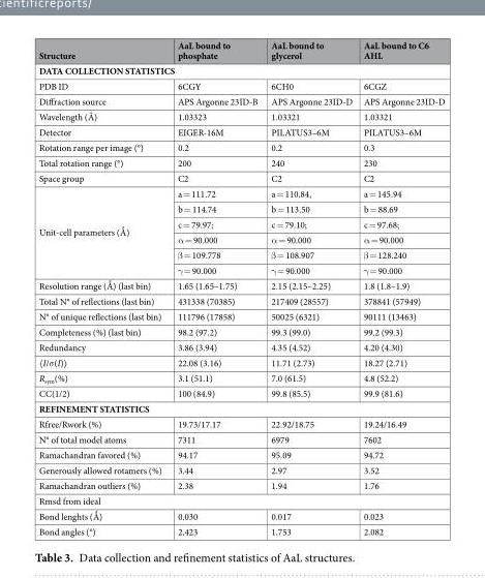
<table><thead><tr><td>Structure</td><td>AaL bound to phosphate</td><td>AaL bound to glycerol</td><td>AaL bound to C6 AHL</td></tr></thead><tbody><tr><td colspan="4">DATA COLLECTION STATISTICS</td></tr><tr><td>PDB ID</td><td>6CGY</td><td>6CH0</td><td>6CGZ</td></tr><tr><td>Diffraction source</td><td>APS Argonne 23ID-B</td><td>APS Argonne 23ID-D</td><td>APS Argonne 23ID-D</td></tr><tr><td>Wavelength (Å)</td><td>1.03323</td><td>1.03321</td><td>1.03321</td></tr><tr><td>Detector</td><td>EIGER-16M</td><td>PILATUS3–6M</td><td>PILATUS3–6M</td></tr><tr><td>Rotation range per image (°)</td><td>0.2</td><td>0.2</td><td>0.3</td></tr><tr><td>Total rotation range (°)</td><td>200</td><td>240</td><td>230</td></tr><tr><td>Space group</td><td>C2</td><td>C2</td><td>C2</td></tr><tr><td rowspan="6">Unit-cell parameters (Ǻ)</td><td>a = 111.72</td><td>a = 110.84,</td><td>a = 145.94</td></tr><tr><td>b = 114.74</td><td>b = 113.50</td><td>b = 88.69</td></tr><tr><td>c = 79.97;</td><td>c = 79.10;</td><td>c = 97.68;</td></tr><tr><td>α = 90.000</td><td>α = 90.000</td><td>α = 90.000</td></tr><tr><td>β = 109.778</td><td>β = 108.907</td><td>β = 128.240</td></tr><tr><td>γ = 90.000</td><td>γ = 90.000</td><td>γ = 90.000</td></tr><tr><td>Resolution range (Ǻ) (last bin)</td><td>1.65 (1.65–1.75)</td><td>2.15 (2.15–2.25)</td><td>1.8 (1.8–1.9)</td></tr><tr><td>Total N° of reflections (last bin)</td><td>431338 (70385)</td><td>217409 (28557)</td><td>378841 (57949)</td></tr><tr><td>N° of unique reflections (last bin)</td><td>111796 (17858)</td><td>50025 (6321)</td><td>90111 (13463)</td></tr><tr><td>Completeness (%) (last bin)</td><td>98.2 (97.2)</td><td>99.3 (99.0)</td><td>99.2 (99.3)</td></tr><tr><td>Redundancy</td><td>3.86 (3.94)</td><td>4.35 (4.52)</td><td>4.20 (4.30)</td></tr><tr><td>〈I/σ(I)〉</td><td>22.08 (3.16)</td><td>11.71 (2.73)</td><td>18.27 (2.71)</td></tr><tr><td>R<sub>sym</sub>(%)</td><td>3.1 (51.1)</td><td>7.0 (61.5)</td><td>4.8 (52.2)</td></tr><tr><td>CC(1/2)</td><td>100 (84.9)</td><td>99.8 (85.5)</td><td>99.9 (81.6)</td></tr><tr><td colspan="4">REFINEMENT STATISTICS</td></tr><tr><td>Rfree/Rwork (%)</td><td>19.73/17.17</td><td>22.92/18.75</td><td>19.24/16.49</td></tr><tr><td>N° of total model atoms</td><td>7311</td><td>6979</td><td>7602</td></tr><tr><td>Ramachandran favored (%)</td><td>94.17</td><td>95.09</td><td>94.72</td></tr><tr><td>Generously allowed rotamers (%)</td><td>3.44</td><td>2.97</td><td>3.52</td></tr><tr><td>Ramachandran outliers (%)</td><td>2.38</td><td>1.94</td><td>1.76</td></tr><tr><td colspan="4">Rmsd from ideal</td></tr><tr><td>Bond lenghts (Ǻ)</td><td>0.030</td><td>0.017</td><td>0.023</td></tr><tr><td>Bond angles (°)</td><td>2.423</td><td>1.753</td><td>2.082</td></tr></tbody></table>